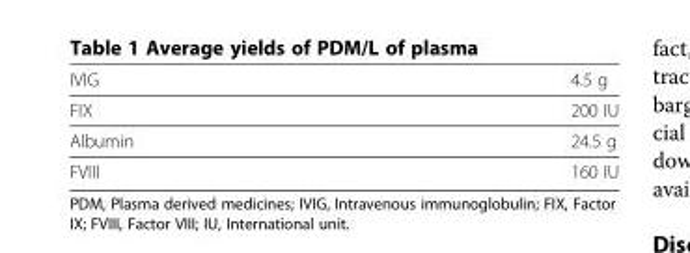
<table><thead><tr><td>IVIG</td><td>4.5 g</td></tr></thead><tbody><tr><td>FIX</td><td>200 IU</td></tr><tr><td>Albumin</td><td>24.5 g</td></tr><tr><td>FVIII</td><td>160 IU</td></tr></tbody></table>